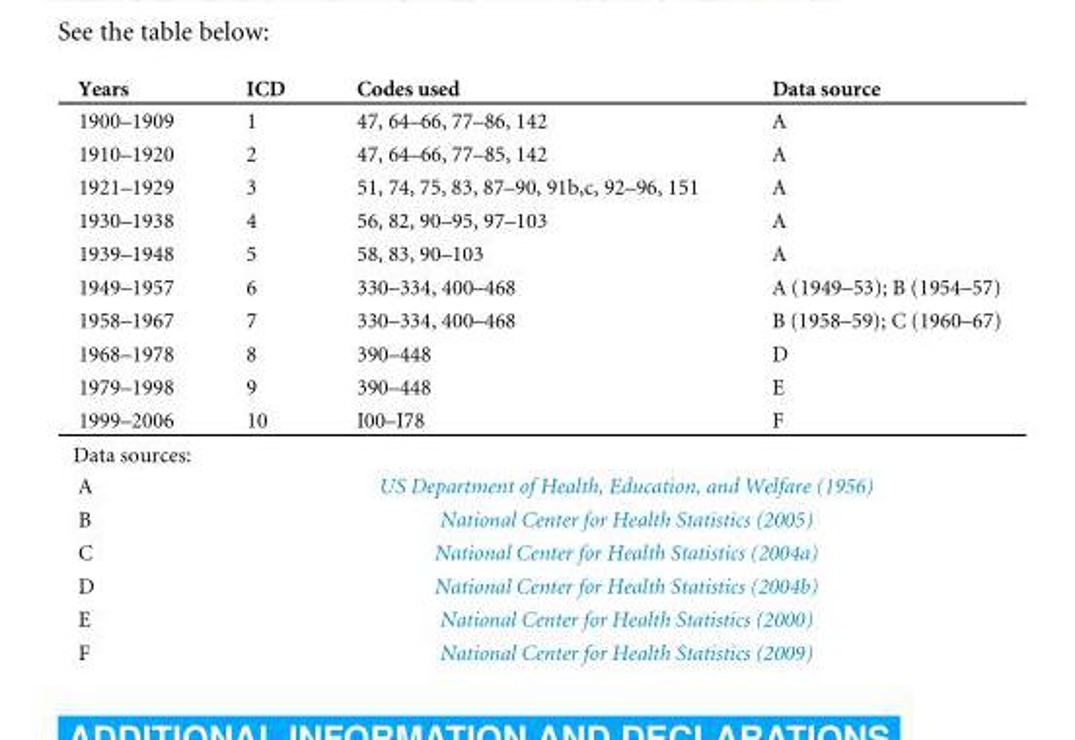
<table><thead><tr><td>Years</td><td>ICD</td><td>Codes used</td><td>Data source</td></tr></thead><tbody><tr><td>1900–1909</td><td>1</td><td>47, 64–66, 77–86, 142</td><td>A</td></tr><tr><td>1910–1920</td><td>2</td><td>47, 64–66, 77–85, 142</td><td>A</td></tr><tr><td>1921–1929</td><td>3</td><td>51, 74, 75, 83, 87–90, 91b,c, 92–96, 151</td><td>A</td></tr><tr><td>1930–1938</td><td>4</td><td>56, 82, 90–95, 97–103</td><td>A</td></tr><tr><td>1939–1948</td><td>5</td><td>58, 83, 90–103</td><td>A</td></tr><tr><td>1949–1957</td><td>6</td><td>330–334, 400–468</td><td>A (1949–53); B (1954–57)</td></tr><tr><td>1958–1967</td><td>7</td><td>330–334, 400–468</td><td>B (1958–59); C (1960–67)</td></tr><tr><td>1968–1978</td><td>8</td><td>390–448</td><td>D</td></tr><tr><td>1979–1998</td><td>9</td><td>390–448</td><td>E</td></tr><tr><td>1999–2006</td><td>10</td><td>I00–I78</td><td>F</td></tr><tr><td colspan="4">Data sources:</td></tr><tr><td>A</td><td colspan="3">US Department of Health, Education, and Welfare (1956)</td></tr><tr><td>B</td><td colspan="3">National Center for Health Statistics (2005)</td></tr><tr><td>C</td><td colspan="3">National Center for Health Statistics (2004a)</td></tr><tr><td>D</td><td colspan="3">National Center for Health Statistics (2004b)</td></tr><tr><td>E</td><td colspan="3">National Center for Health Statistics (2000)</td></tr><tr><td>F</td><td colspan="3">National Center for Health Statistics (2009)</td></tr></tbody></table>